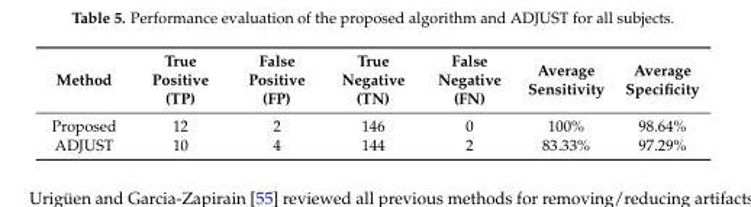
<table><thead><tr><td>Method</td><td>True Positive (TP)</td><td>False Positive (FP)</td><td>True Negative (TN)</td><td>False Negative (FN)</td><td>Average Sensitivity</td><td>Average Specificity</td></tr></thead><tbody><tr><td>Proposed</td><td>12</td><td>2</td><td>146</td><td>0</td><td>100%</td><td>98.64%</td></tr><tr><td>ADJUST</td><td>10</td><td>4</td><td>144</td><td>2</td><td>83.33%</td><td>97.29%</td></tr></tbody></table>